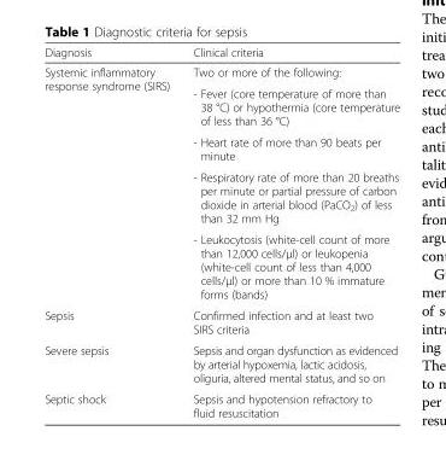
<table><thead><tr><td>Diagnosis</td><td>Clinical criteria</td></tr></thead><tbody><tr><td rowspan="5">Systemic inflammatory response syndrome (SIRS)</td><td>Two or more of the following:</td></tr><tr><td>- Fever (core temperature of more than 38 °C) or hypothermia (core temperature of less than 36 °C)</td></tr><tr><td>- Heart rate of more than 90 beats per minute</td></tr><tr><td>- Respiratory rate of more than 20 breaths per minute or partial pressure of carbon dioxide in arterial blood (PaCO<sub>2</sub>) of less than 32 mm Hg</td></tr><tr><td>- Leukocytosis (white-cell count of more than 12,000 cells/μl) or leukopenia (white-cell count of less than 4,000 cells/μl) or more than 10 % immature forms (bands)</td></tr><tr><td>Sepsis</td><td>Confirmed infection and at least two SIRS criteria</td></tr><tr><td>Severe sepsis</td><td>Sepsis and organ dysfunction as evidenced by arterial hypoxemia, lactic acidosis, oliguria, altered mental status, and so on</td></tr><tr><td>Septic shock</td><td>Sepsis and hypotension refractory to fluid resuscitation</td></tr></tbody></table>